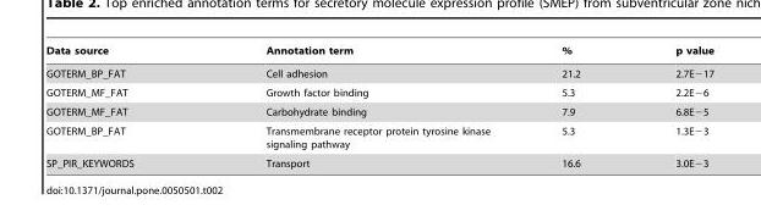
<table><thead><tr><td>Data source</td><td>Annotation term</td><td>%</td><td>p value</td></tr></thead><tbody><tr><td>GOTERM_BP_FAT</td><td>Cell adhesion</td><td>21.2</td><td>2.7E−17</td></tr><tr><td>GOTERM_MF_FAT</td><td>Growth factor binding</td><td>5.3</td><td>2.2E−6</td></tr><tr><td>GOTERM_MF_FAT</td><td>Carbohydrate binding</td><td>7.9</td><td>6.8E−5</td></tr><tr><td>GOTERM_BP_FAT</td><td>Transmembrane receptor protein tyrosine kinase signaling pathway</td><td>5.3</td><td>1.3E−3</td></tr><tr><td>SP_PIR_KEYWORDS</td><td>Transport</td><td>16.6</td><td>3.0E−3</td></tr></tbody></table>